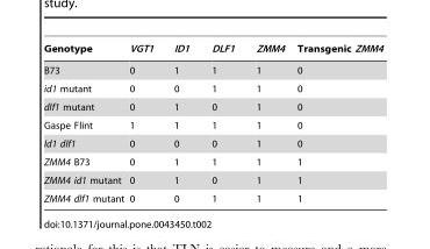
<table><thead><tr><td>Genotype</td><td>VGT1</td><td>ID1</td><td>DLF1</td><td>ZMM4</td><td>Transgenic ZMM4</td></tr></thead><tbody><tr><td>B73</td><td>0</td><td>1</td><td>1</td><td>1</td><td>0</td></tr><tr><td>id1 mutant</td><td>0</td><td>0</td><td>1</td><td>1</td><td>0</td></tr><tr><td>dlf1 mutant</td><td>0</td><td>1</td><td>0</td><td>1</td><td>0</td></tr><tr><td>Gaspe Flint</td><td>1</td><td>1</td><td>1</td><td>1</td><td>0</td></tr><tr><td>Id1 dlf1</td><td>0</td><td>0</td><td>0</td><td>1</td><td>0</td></tr><tr><td>ZMM4 B73</td><td>0</td><td>1</td><td>1</td><td>1</td><td>1</td></tr><tr><td>ZMM4 id1 mutant</td><td>0</td><td>1</td><td>0</td><td>1</td><td>1</td></tr><tr><td>ZMM4 dlf1 mutant</td><td>0</td><td>0</td><td>1</td><td>1</td><td>1</td></tr></tbody></table>